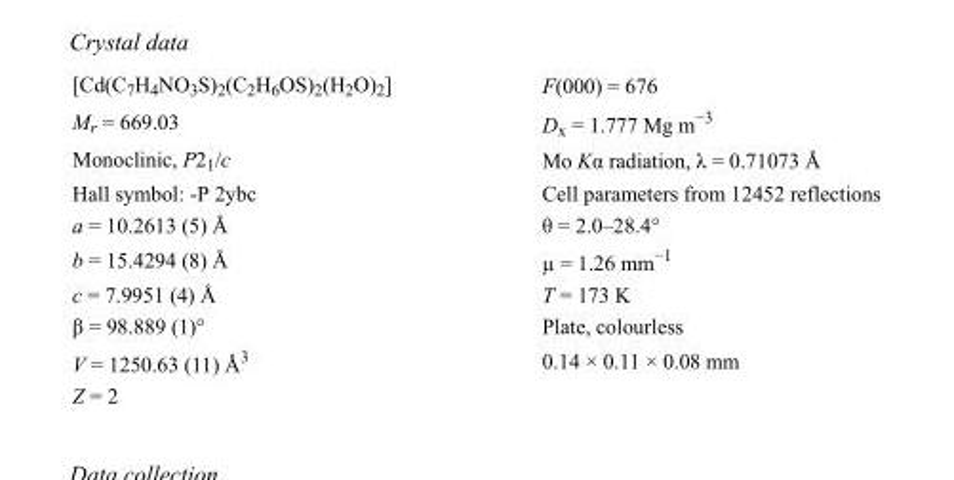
<table><tbody><tr><td>[Cd(C<sub>7</sub>H<sub>4</sub>NO<sub>3</sub>S)<sub>2</sub>(C<sub>2</sub>H<sub>6</sub>OS)<sub>2</sub>(H<sub>2</sub>O)<sub>2</sub>]</td><td>F(000) = 676</td></tr><tr><td>M<sub>r</sub> = 669.03</td><td>D<sub>x</sub> = 1.777 Mg m<sup>−3</sup></td></tr><tr><td>Monoclinic, P2<sub>1</sub>/c</td><td>Mo Kα radiation, λ = 0.71073 Å</td></tr><tr><td>Hall symbol: -P 2ybc</td><td>Cell parameters from 12452 reflections</td></tr><tr><td>a = 10.2613 (5) Å</td><td>θ = 2.0–28.4°</td></tr><tr><td>b = 15.4294 (8) Å</td><td>µ = 1.26 mm<sup>−1</sup></td></tr><tr><td>c = 7.9951 (4) Å</td><td>T = 173 K</td></tr><tr><td>β = 98.889 (1)°</td><td>Plate, colourless</td></tr><tr><td>V = 1250.63 (11) Å<sup>3</sup></td><td>0.14 × 0.11 × 0.08 mm</td></tr><tr><td>Z = 2</td><td></td></tr></tbody></table>